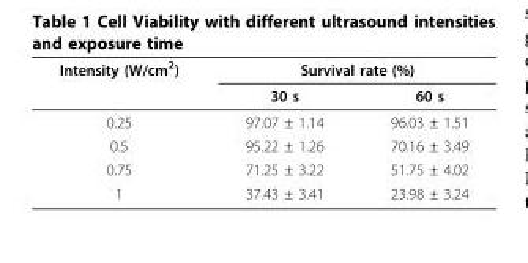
<table><thead><tr><td rowspan="2">Intensity (W/cm<sup>2</sup>)</td><td colspan="2">Survival rate (%)</td></tr><tr><td>30 s</td><td>60 s</td></tr></thead><tbody><tr><td>0.25</td><td>97.07 ± 1.14</td><td>96.03 ± 1.51</td></tr><tr><td>0.5</td><td>95.22 ± 1.26</td><td>70.16 ± 3.49</td></tr><tr><td>0.75</td><td>71.25 ± 3.22</td><td>51.75 ± 4.02</td></tr><tr><td>1</td><td>37.43 ± 3.41</td><td>23.98 ± 3.24</td></tr></tbody></table>